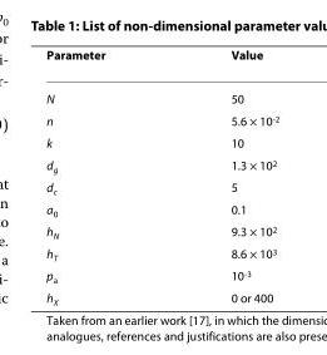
<table><thead><tr><td>Parameter</td><td>Value</td></tr></thead><tbody><tr><td>N</td><td>50</td></tr><tr><td>n</td><td>5.6 × 10<sup>-2</sup></td></tr><tr><td>k</td><td>10</td></tr><tr><td>d<sub>g</sub></td><td>1.3 × 10<sup>2</sup></td></tr><tr><td>d<sub>c</sub></td><td>5</td></tr><tr><td>a<sub>0</sub></td><td>0.1</td></tr><tr><td>h<sub>N</sub></td><td>9.3 × 10<sup>2</sup></td></tr><tr><td>h<sub>T</sub></td><td>8.6 × 10<sup>3</sup></td></tr><tr><td>p<sub>a</sub></td><td>10<sup>-3</sup></td></tr><tr><td>h<sub>X</sub></td><td>0 or 400</td></tr></tbody></table>